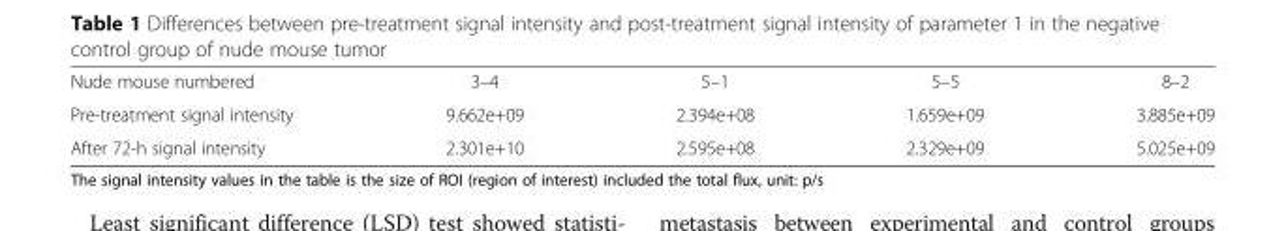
<table><tbody><tr><td>Nude mouse numbered</td><td>3–4</td><td>5–1</td><td>5–5</td><td>8–2</td></tr><tr><td>Pre-treatment signal intensity</td><td>9.662e+09</td><td>2.394e+08</td><td>1.659e+09</td><td>3.885e+09</td></tr><tr><td>After 72-h signal intensity</td><td>2.301e+10</td><td>2.595e+08</td><td>2.329e+09</td><td>5.025e+09</td></tr></tbody></table>